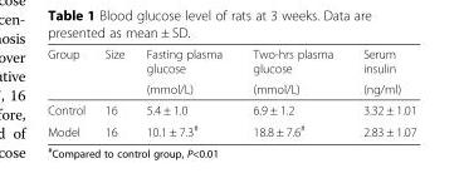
<table><thead><tr><td rowspan="2">Group</td><td rowspan="2">Size</td><td rowspan="2">Fasting plasma glucose (mmol/L)</td><td rowspan="2">Two-hrs plasma glucose (mmol/L)</td><td rowspan="2">Serum insulin (ng/ml)</td></tr><tr></tr></thead><tbody><tr><td>Control</td><td>16</td><td>5.4 ± 1.0</td><td>6.9 ± 1.2</td><td>3.32 ± 1.01</td></tr><tr><td>Model</td><td>16</td><td>10.1 ± 7.3<sup>#</sup></td><td>18.8 ± 7.6<sup>#</sup></td><td>2.83 ± 1.07</td></tr></tbody></table>